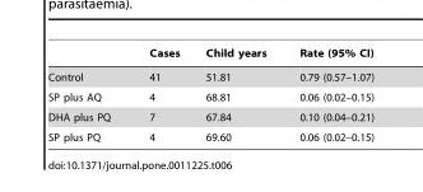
<table><thead><tr><td></td><td>Cases</td><td>Child years</td><td>Rate (95% CI)</td></tr></thead><tbody><tr><td>Control</td><td>41</td><td>51.81</td><td>0.79 (0.57–1.07)</td></tr><tr><td>SP plus AQ</td><td>4</td><td>68.81</td><td>0.06 (0.02–0.15)</td></tr><tr><td>DHA plus PQ</td><td>7</td><td>67.84</td><td>0.10 (0.04–0.21)</td></tr><tr><td>SP plus PQ</td><td>4</td><td>69.60</td><td>0.06 (0.02–0.15)</td></tr></tbody></table>